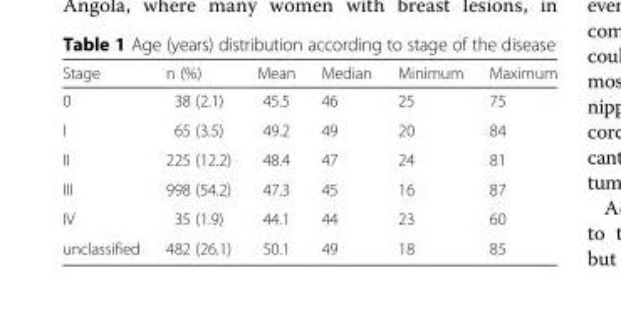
<table><thead><tr><td>Stage</td><td>n (%)</td><td>Mean</td><td>Median</td><td>Minimum</td><td>Maximum</td></tr></thead><tbody><tr><td>0</td><td>38 (2.1)</td><td>45.5</td><td>46</td><td>25</td><td>75</td></tr><tr><td>I</td><td>65 (3.5)</td><td>49.2</td><td>49</td><td>20</td><td>84</td></tr><tr><td>II</td><td>225 (12.2)</td><td>48.4</td><td>47</td><td>24</td><td>81</td></tr><tr><td>III</td><td>998 (54.2)</td><td>47.3</td><td>45</td><td>16</td><td>87</td></tr><tr><td>IV</td><td>35 (1.9)</td><td>44.1</td><td>44</td><td>23</td><td>60</td></tr><tr><td>unclassified</td><td>482 (26.1)</td><td>50.1</td><td>49</td><td>18</td><td>85</td></tr></tbody></table>